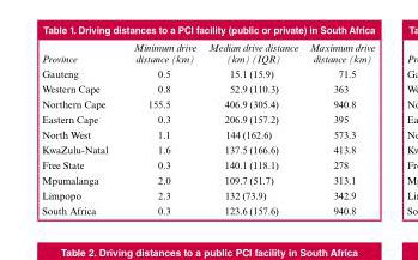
<table><thead><tr><td>Province</td><td>Minimum drive distance (km)</td><td>Median drive distance (km) (IQR)</td><td>Maximum drive distance (km)</td></tr></thead><tbody><tr><td>Gauteng</td><td>0.5</td><td>15.1 (15.9)</td><td>71.5</td></tr><tr><td>Western Cape</td><td>0.8</td><td>52.9 (110.3)</td><td>363</td></tr><tr><td>Northern Cape</td><td>155.5</td><td>406.9 (305.4)</td><td>940.8</td></tr><tr><td>Eastern Cape</td><td>0.3</td><td>206.9 (157.2)</td><td>395</td></tr><tr><td>North West</td><td>1.1</td><td>144 (162.6)</td><td>573.3</td></tr><tr><td>KwaZulu-Natal</td><td>1.6</td><td>137.5 (166.6)</td><td>413.8</td></tr><tr><td>Free State</td><td>0.3</td><td>140.1 (118.1)</td><td>278</td></tr><tr><td>Mpumalanga</td><td>2.0</td><td>109.7 (51.7)</td><td>313.1</td></tr><tr><td>Limpopo</td><td>2.3</td><td>132 (73.9)</td><td>342.9</td></tr><tr><td>South Africa</td><td>0.3</td><td>123.6 (157.6)</td><td>940.8</td></tr></tbody></table>